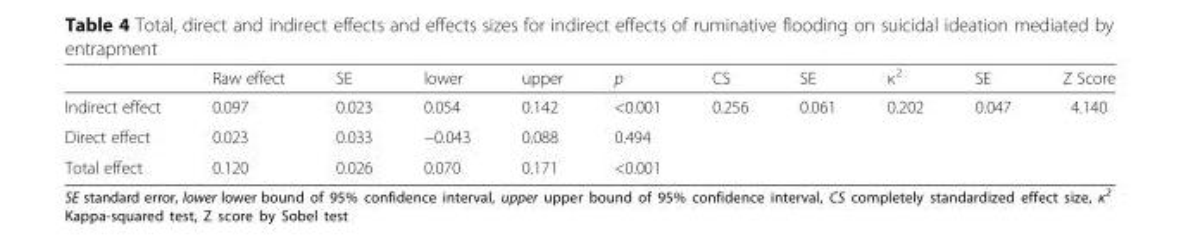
<table><thead><tr><td></td><td>Raw effect</td><td>SE</td><td>lower</td><td>upper</td><td>p</td><td>CS</td><td>SE</td><td>κ<sup>2</sup></td><td>SE</td><td>Z Score</td></tr></thead><tbody><tr><td>Indirect effect</td><td>0.097</td><td>0.023</td><td>0.054</td><td>0.142</td><td>&lt;0.001</td><td>0.256</td><td>0.061</td><td>0.202</td><td>0.047</td><td>4.140</td></tr><tr><td>Direct effect</td><td>0.023</td><td>0.033</td><td>−0.043</td><td>0.088</td><td>0.494</td><td></td><td></td><td></td><td></td><td></td></tr><tr><td>Total effect</td><td>0.120</td><td>0.026</td><td>0.070</td><td>0.171</td><td>&lt;0.001</td><td></td><td></td><td></td><td></td><td></td></tr></tbody></table>